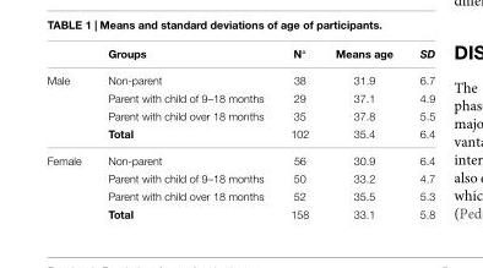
<table><thead><tr><td></td><td>Groups</td><td>N◦</td><td>Means age</td><td>SD</td></tr></thead><tbody><tr><td rowspan="4">Male</td><td>Non-parent</td><td>38</td><td>31.9</td><td>6.7</td></tr><tr><td>Parent with child of 9–18 months</td><td>29</td><td>37.1</td><td>4.9</td></tr><tr><td>Parent with child over 18 months</td><td>35</td><td>37.8</td><td>5.5</td></tr><tr><td>Total</td><td>102</td><td>35.4</td><td>6.4</td></tr><tr><td rowspan="4">Female</td><td>Non-parent</td><td>56</td><td>30.9</td><td>6.4</td></tr><tr><td>Parent with child of 9–18 months</td><td>50</td><td>33.2</td><td>4.7</td></tr><tr><td>Parent with child over 18 months</td><td>52</td><td>35.5</td><td>5.3</td></tr><tr><td>Total</td><td>158</td><td>33.1</td><td>5.8</td></tr></tbody></table>